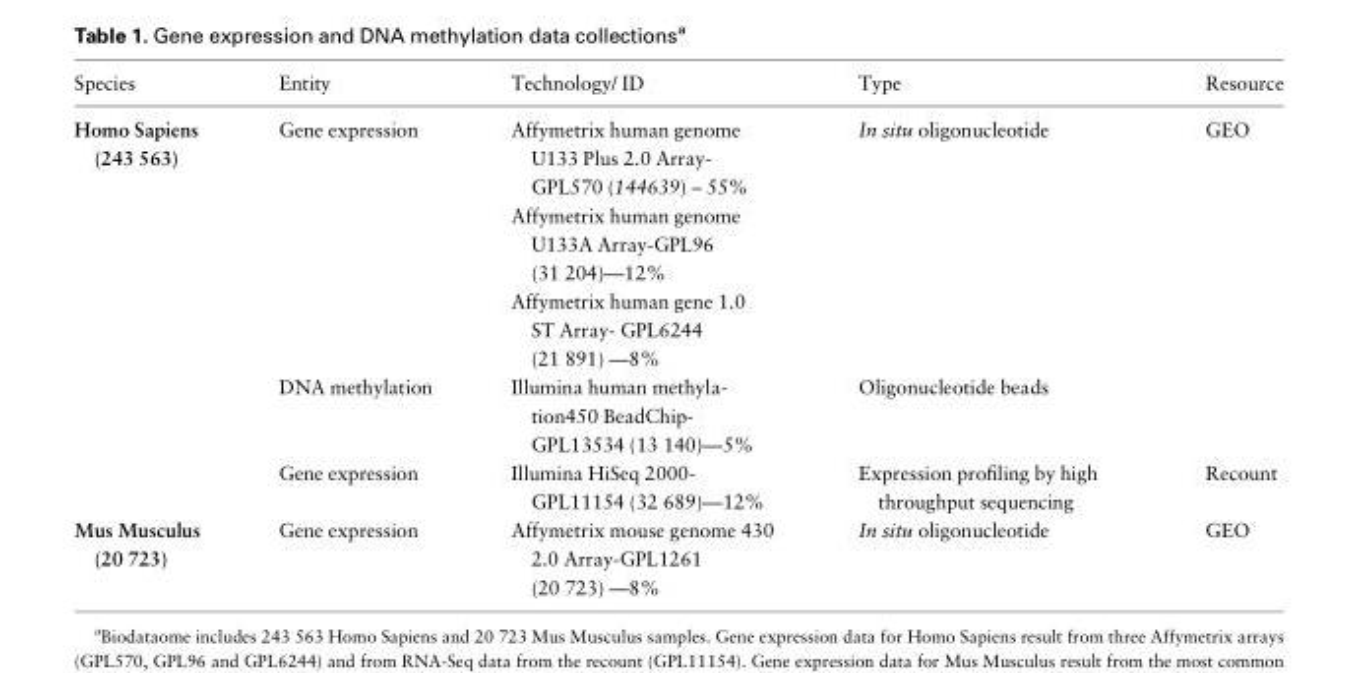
<table><thead><tr><td>Species</td><td>Entity</td><td>Technology/ ID</td><td>Type</td><td>Resource</td></tr></thead><tbody><tr><td rowspan="5">Homo Sapiens (243 563)</td><td rowspan="3">Gene expression</td><td>Affymetrix human genome U133 Plus 2.0 Array- GPL570 (144639) – 55%</td><td rowspan="3">In situ oligonucleotide</td><td rowspan="4">GEO</td></tr><tr><td>Affymetrix human genome U133A Array-GPL96 (31 204)—12%</td></tr><tr><td>Affymetrix human gene 1.0 ST Array- GPL6244 (21 891) —8%</td></tr><tr><td>DNA methylation</td><td>Illumina human methyla- tion450 BeadChip- GPL13534 (13 140)—5%</td><td>Oligonucleotide beads</td></tr><tr><td>Gene expression</td><td>Illumina HiSeq 2000- GPL11154 (32 689)—12%</td><td>Expression profiling by high throughput sequencing</td><td>Recount</td></tr><tr><td>Mus Musculus (20 723)</td><td>Gene expression</td><td>Affymetrix mouse genome 430 2.0 Array-GPL1261 (20 723) —8%</td><td>In situ oligonucleotide</td><td>GEO</td></tr></tbody></table>